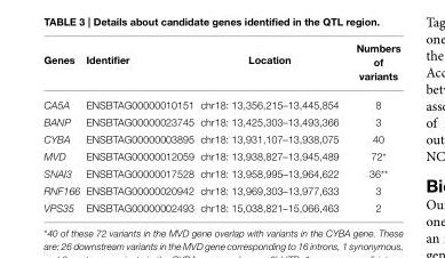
<table><thead><tr><td>Genes</td><td>Identifier</td><td>Location</td><td>Numbers of variants</td></tr></thead><tbody><tr><td>CA5A</td><td>ENSBTAG00000010151</td><td>chr18: 13,356,215–13,445,854</td><td>8</td></tr><tr><td>BANP</td><td>ENSBTAG00000023745</td><td>chr18: 13,425,303–13,493,366</td><td>3</td></tr><tr><td>CYBA</td><td>ENSBTAG00000003895</td><td>chr18: 13,931,107–13,938,075</td><td>40</td></tr><tr><td>MVD</td><td>ENSBTAG00000012059</td><td>chr18: 13,938,827–13,945,489</td><td>72*</td></tr><tr><td>SNAI3</td><td>ENSBTAG00000017528</td><td>chr18: 13,958,995–13,964,622</td><td>36**</td></tr><tr><td>RNF166</td><td>ENSBTAG00000020942</td><td>chr18: 13,969,303–13,977,633</td><td>3</td></tr><tr><td>VPS35</td><td>ENSBTAG00000002493</td><td>chr18: 15,038,821–15,066,463</td><td>2</td></tr></tbody></table>